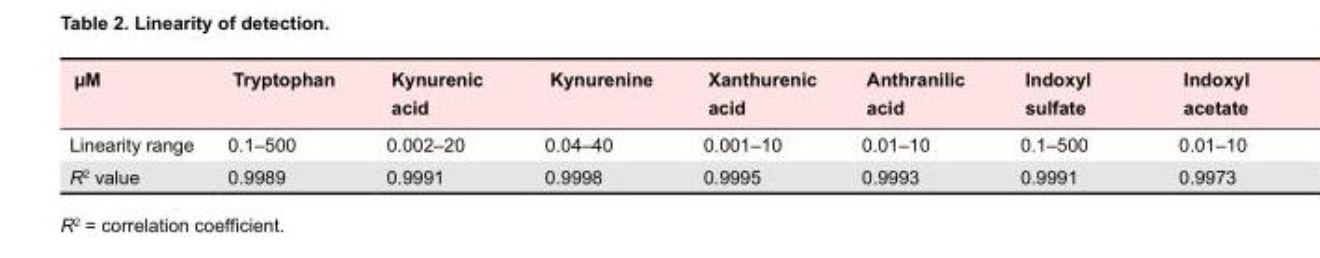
<table><thead><tr><td>µM</td><td>Tryptophan</td><td>Kynurenic acid</td><td>Kynurenine</td><td>Xanthurenic acid</td><td>Anthranilic acid</td><td>Indoxyl sulfate</td><td>Indoxyl acetate</td></tr></thead><tbody><tr><td>Linearity range</td><td>0.1–500</td><td>0.002–20</td><td>0.04–40</td><td>0.001–10</td><td>0.01–10</td><td>0.1–500</td><td>0.01–10</td></tr><tr><td>R<sup>2</sup> value</td><td>0.9989</td><td>0.9991</td><td>0.9998</td><td>0.9995</td><td>0.9993</td><td>0.9991</td><td>0.9973</td></tr></tbody></table>